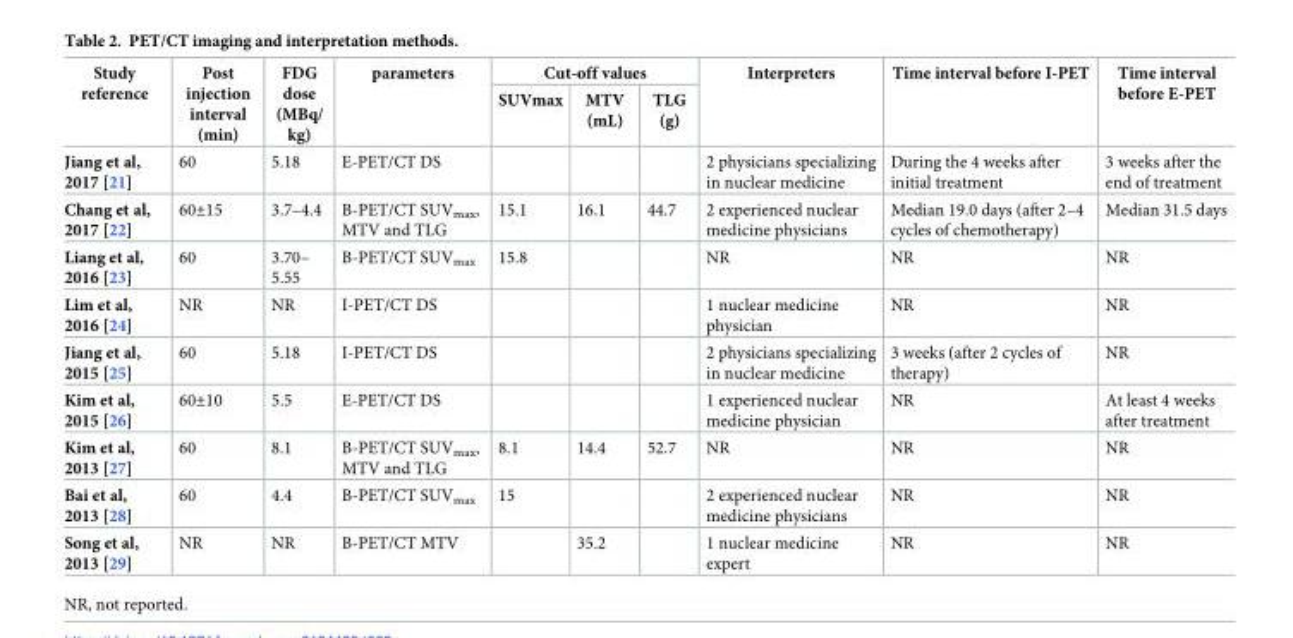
<table><thead><tr><td rowspan="2">Study reference</td><td rowspan="2">Post injection interval (min)</td><td rowspan="2">FDG dose (MBq/ kg)</td><td rowspan="2">parameters</td><td colspan="3">Cut-off values</td><td rowspan="2">Interpreters</td><td rowspan="2">Time interval before I-PET</td><td rowspan="2">Time interval before E-PET</td></tr><tr><td>SUVmax</td><td>MTV (mL)</td><td>TLG (g)</td></tr></thead><tbody><tr><td>Jiang et al, 2017 [21]</td><td>60</td><td>5.18</td><td>E-PET/CT DS</td><td></td><td></td><td></td><td>2 physicians specializing in nuclear medicine</td><td>During the 4 weeks after initial treatment</td><td>3 weeks after the end of treatment</td></tr><tr><td>Chang et al, 2017 [22]</td><td>60±15</td><td>3.7–4.4</td><td>B-PET/CT SUV<sub>max</sub>, MTV and TLG</td><td>15.1</td><td>16.1</td><td>44.7</td><td>2 experienced nuclear medicine physicians</td><td>Median 19.0 days (after 2–4 cycles of chemotherapy)</td><td>Median 31.5 days</td></tr><tr><td>Liang et al, 2016 [23]</td><td>60</td><td>3.70– 5.55</td><td>B-PET/CT SUV<sub>max</sub></td><td>15.8</td><td></td><td></td><td>NR</td><td>NR</td><td>NR</td></tr><tr><td>Lim et al, 2016 [24]</td><td>NR</td><td>NR</td><td>I-PET/CT DS</td><td></td><td></td><td></td><td>1 nuclear medicine physician</td><td>NR</td><td>NR</td></tr><tr><td>Jiang et al, 2015 [25]</td><td>60</td><td>5.18</td><td>I-PET/CT DS</td><td></td><td></td><td></td><td>2 physicians specializing in nuclear medicine</td><td>3 weeks (after 2 cycles of therapy)</td><td>NR</td></tr><tr><td>Kim et al, 2015 [26]</td><td>60±10</td><td>5.5</td><td>E-PET/CT DS</td><td></td><td></td><td></td><td>1 experienced nuclear medicine physician</td><td>NR</td><td>At least 4 weeks after treatment</td></tr><tr><td>Kim et al, 2013 [27]</td><td>60</td><td>8.1</td><td>B-PET/CT SUV<sub>max</sub>, MTV and TLG</td><td>8.1</td><td>14.4</td><td>52.7</td><td>NR</td><td>NR</td><td>NR</td></tr><tr><td>Bai et al, 2013 [28]</td><td>60</td><td>4.4</td><td>B-PET/CT SUV<sub>max</sub></td><td>15</td><td></td><td></td><td>2 experienced nuclear medicine physicians</td><td>NR</td><td>NR</td></tr><tr><td>Song et al, 2013 [29]</td><td>NR</td><td>NR</td><td>B-PET/CT MTV</td><td></td><td>35.2</td><td></td><td>1 nuclear medicine expert</td><td>NR</td><td>NR</td></tr></tbody></table>